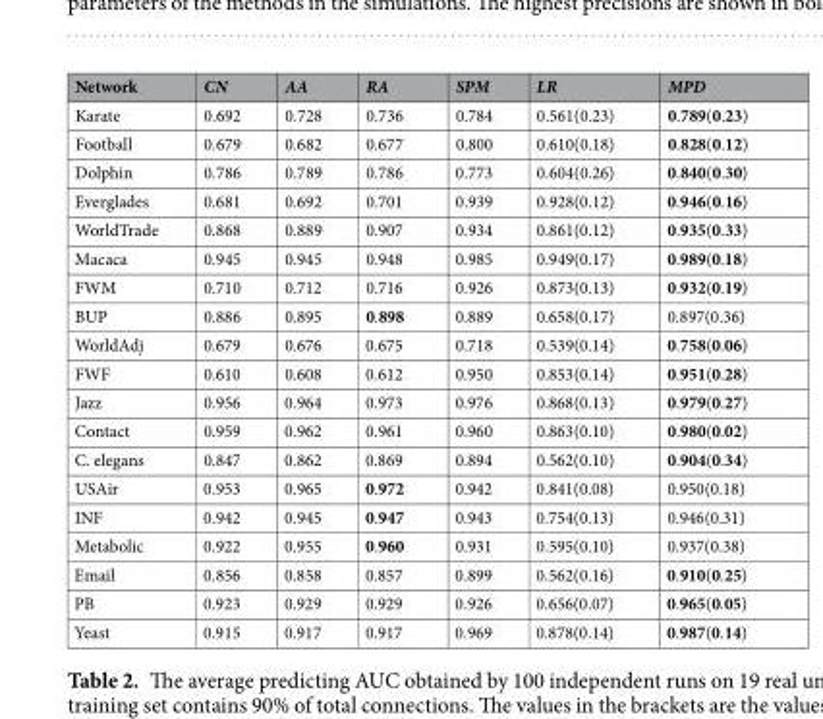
<table><thead><tr><td>Network</td><td>CN</td><td>AA</td><td>RA</td><td>SPM</td><td>LR</td><td>MPD</td></tr></thead><tbody><tr><td>Karate</td><td>0.692</td><td>0.728</td><td>0.736</td><td>0.784</td><td>0.561(0.23)</td><td>0.789(0.23)</td></tr><tr><td>Football</td><td>0.679</td><td>0.682</td><td>0.677</td><td>0.800</td><td>0.610(0.18)</td><td>0.828(0.12)</td></tr><tr><td>Dolphin</td><td>0.786</td><td>0.789</td><td>0.786</td><td>0.773</td><td>0.604(0.26)</td><td>0.840(0.30)</td></tr><tr><td>Everglades</td><td>0.681</td><td>0.692</td><td>0.701</td><td>0.939</td><td>0.928(0.12)</td><td>0.946(0.16)</td></tr><tr><td>WorldTrade</td><td>0.868</td><td>0.889</td><td>0.907</td><td>0.934</td><td>0.861(0.12)</td><td>0.935(0.33)</td></tr><tr><td>Macaca</td><td>0.945</td><td>0.945</td><td>0.948</td><td>0.985</td><td>0.949(0.17)</td><td>0.989(0.18)</td></tr><tr><td>FWM</td><td>0.710</td><td>0.712</td><td>0.716</td><td>0.926</td><td>0.873(0.13)</td><td>0.932(0.19)</td></tr><tr><td>BUP</td><td>0.886</td><td>0.895</td><td>0.898</td><td>0.889</td><td>0.658(0.17)</td><td>0.897(0.36)</td></tr><tr><td>WorldAdj</td><td>0.679</td><td>0.676</td><td>0.675</td><td>0.718</td><td>0.539(0.14)</td><td>0.758(0.06)</td></tr><tr><td>FWF</td><td>0.610</td><td>0.608</td><td>0.612</td><td>0.950</td><td>0.853(0.14)</td><td>0.951(0.28)</td></tr><tr><td>Jazz</td><td>0.956</td><td>0.964</td><td>0.973</td><td>0.976</td><td>0.868(0.13)</td><td>0.979(0.27)</td></tr><tr><td>Contact</td><td>0.959</td><td>0.962</td><td>0.961</td><td>0.960</td><td>0.863(0.10)</td><td>0.980(0.02)</td></tr><tr><td>C. elegans</td><td>0.847</td><td>0.862</td><td>0.869</td><td>0.894</td><td>0.562(0.10)</td><td>0.904(0.34)</td></tr><tr><td>USAir</td><td>0.953</td><td>0.965</td><td>0.972</td><td>0.942</td><td>0.841(0.08)</td><td>0.950(0.18)</td></tr><tr><td>INF</td><td>0.942</td><td>0.945</td><td>0.947</td><td>0.943</td><td>0.754(0.13)</td><td>0.946(0.31)</td></tr><tr><td>Metabolic</td><td>0.922</td><td>0.955</td><td>0.960</td><td>0.931</td><td>0.595(0.10)</td><td>0.937(0.38)</td></tr><tr><td>Email</td><td>0.856</td><td>0.858</td><td>0.857</td><td>0.899</td><td>0.562(0.16)</td><td>0.910(0.25)</td></tr><tr><td>PB</td><td>0.923</td><td>0.929</td><td>0.929</td><td>0.926</td><td>0.656(0.07)</td><td>0.965(0.05)</td></tr><tr><td>Yeast</td><td>0.915</td><td>0.917</td><td>0.917</td><td>0.969</td><td>0.878(0.14)</td><td>0.987(0.14)</td></tr></tbody></table>